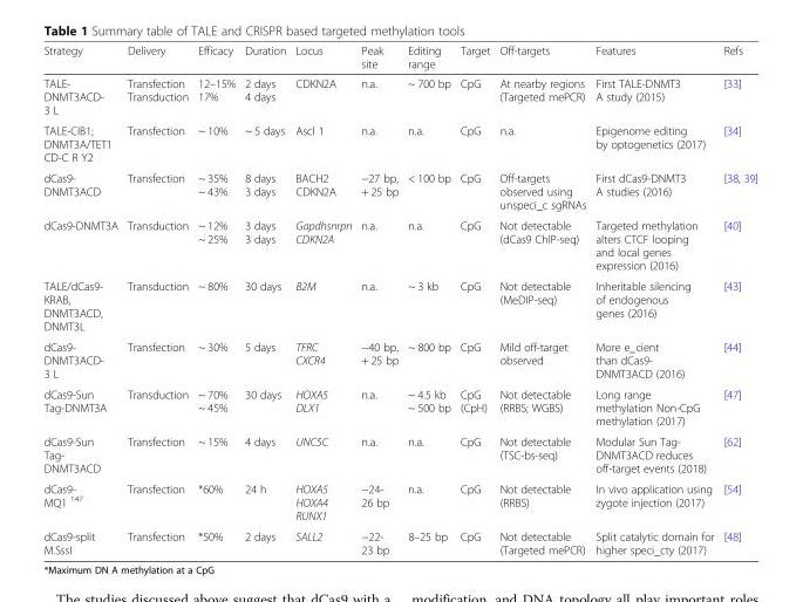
<table><thead><tr><td>Strategy</td><td>Delivery</td><td>Efficacy</td><td>Duration</td><td>Locus</td><td>Peak site</td><td>Editing range</td><td>Target</td><td>Off-targets</td><td>Features</td><td>Refs</td></tr></thead><tbody><tr><td>TALE- DNMT3ACD- 3 L</td><td>Transfection Transduction</td><td>12–15% 17%</td><td>2 days 4 days</td><td>CDKN2A</td><td>n.a.</td><td>~ 700 bp</td><td>CpG</td><td>At nearby regions (Targeted mePCR)</td><td>First TALE-DNMT3 A study (2015)</td><td>[33]</td></tr><tr><td>TALE-CIB1; DNMT3A/TET1 CD-C R Y2</td><td>Transfection</td><td>~ 10%</td><td>~ 5 days</td><td>Ascl 1</td><td>n.a.</td><td>n.a.</td><td>CpG</td><td>n.a.</td><td>Epigenome editing by optogenetics (2017)</td><td>[34]</td></tr><tr><td>dCas9- DNMT3ACD</td><td>Transfection</td><td>~ 35% ~ 43%</td><td>8 days 3 days</td><td>BACH2 CDKN2A</td><td>−27 bp, + 25 bp</td><td>&lt; 100 bp</td><td>CpG</td><td>Off-targets observed using unspeci_c sgRNAs</td><td>First dCas9-DNMT3 A studies (2016)</td><td>[38, 39]</td></tr><tr><td>dCas9-DNMT3A</td><td>Transduction</td><td>~ 12% ~ 25%</td><td>3 days 3 days</td><td>Gapdhsnrpn CDKN2A</td><td>n.a.</td><td>n.a.</td><td>CpG</td><td>Not detectable (dCas9 ChIP-seq)</td><td>Targeted methylation alters CTCF looping and local genes expression (2016)</td><td>[40]</td></tr><tr><td>TALE/dCas9- KRAB, DNMT3ACD, DNMT3L</td><td>Transduction</td><td>~ 80%</td><td>30 days</td><td>B2M</td><td>n.a.</td><td>~ 3 kb</td><td>CpG</td><td>Not detectable (MeDIP-seq)</td><td>Inheritable silencing of endogenous genes (2016)</td><td>[43]</td></tr><tr><td>dCas9- DNMT3ACD- 3 L</td><td>Transfection</td><td>~ 30%</td><td>5 days</td><td>TFRC CXCR4</td><td>−40 bp, + 25 bp</td><td>~ 800 bp</td><td>CpG</td><td>Mild off-target observed</td><td>More e_cient than dCas9- DNMT3ACD (2016)</td><td>[44]</td></tr><tr><td>dCas9-Sun Tag-DNMT3A</td><td>Transduction</td><td>~ 70% ~ 45%</td><td>30 days</td><td>HOXA5 DLX1</td><td>n.a.</td><td>~ 4.5 kb ~ 500 bp</td><td>CpG (CpH)</td><td>Not detectable (RRBS; WGBS)</td><td>Long range methylation Non-CpG methylation (2017)</td><td>[47]</td></tr><tr><td>dCas9-Sun Tag- DNMT3ACD</td><td>Transfection</td><td>~ 15%</td><td>4 days</td><td>UNC5C</td><td>n.a.</td><td>n.a.</td><td>CpG</td><td>Not detectable (TSC-bs-seq)</td><td>Modular Sun Tag- DNMT3ACD reduces off-target events (2018)</td><td>[62]</td></tr><tr><td>dCas9- MQ1 <sup>147</sup></td><td>Transfection</td><td>*60%</td><td>24 h</td><td>HOXA5 HOXA4 RUNX1</td><td>−24- 26 bp</td><td>n.a.</td><td>CpG</td><td>Not detectable (RRBS)</td><td>In vivo application using zygote injection (2017)</td><td>[54]</td></tr><tr><td>dCas9-split M.SssI</td><td>Transfection</td><td>*50%</td><td>2 days</td><td>SALL2</td><td>−22- 23 bp</td><td>8–25 bp</td><td>CpG</td><td>Not detectable (Targeted mePCR)</td><td>Split catalytic domain for higher speci_cty (2017)</td><td>[48]</td></tr></tbody></table>